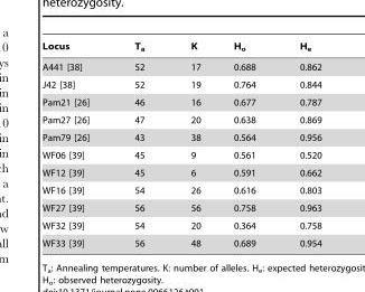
<table><thead><tr><td>Locus</td><td>T<sub>a</sub></td><td>K</td><td>H<sub>o</sub></td><td>H<sub>e</sub></td></tr></thead><tbody><tr><td>A441 [38]</td><td>52</td><td>17</td><td>0.688</td><td>0.862</td></tr><tr><td>J42 [38]</td><td>52</td><td>19</td><td>0.764</td><td>0.844</td></tr><tr><td>Pam21 [26]</td><td>46</td><td>16</td><td>0.677</td><td>0.787</td></tr><tr><td>Pam27 [26]</td><td>47</td><td>20</td><td>0.638</td><td>0.869</td></tr><tr><td>Pam79 [26]</td><td>43</td><td>38</td><td>0.564</td><td>0.956</td></tr><tr><td>WF06 [39]</td><td>45</td><td>9</td><td>0.561</td><td>0.520</td></tr><tr><td>WF12 [39]</td><td>45</td><td>6</td><td>0.591</td><td>0.662</td></tr><tr><td>WF16 [39]</td><td>54</td><td>26</td><td>0.616</td><td>0.803</td></tr><tr><td>WF27 [39]</td><td>56</td><td>56</td><td>0.758</td><td>0.963</td></tr><tr><td>WF32 [39]</td><td>54</td><td>20</td><td>0.364</td><td>0.758</td></tr><tr><td>WF33 [39]</td><td>56</td><td>48</td><td>0.689</td><td>0.954</td></tr></tbody></table>